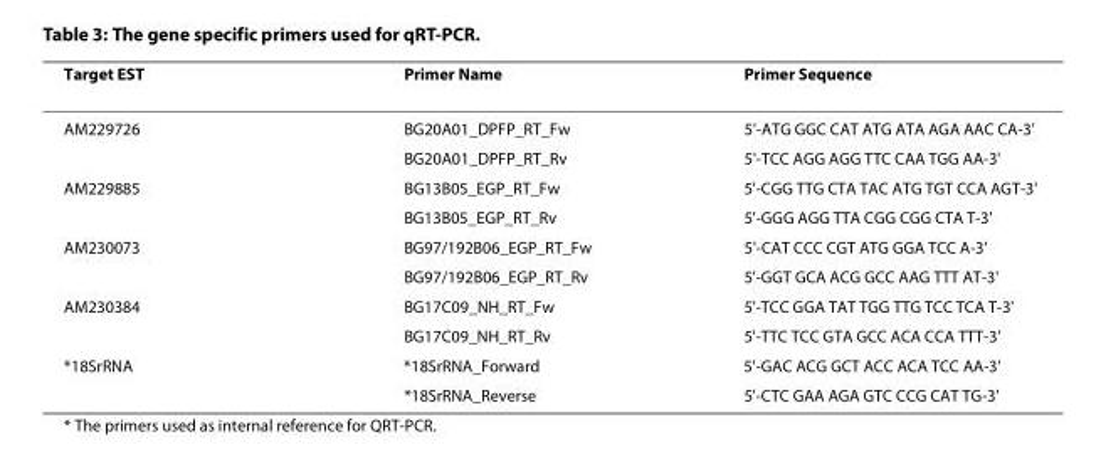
<table><thead><tr><td>Target EST</td><td>Primer Name</td><td>Primer Sequence</td></tr></thead><tbody><tr><td rowspan="2">AM229726</td><td>BG20A01_DPFP_RT_Fw</td><td>5&#x27;-ATG GGC CAT ATG ATA AGA AAC CA-3&#x27;</td></tr><tr><td>BG20A01_DPFP_RT_Rv</td><td>5&#x27;-TCC AGG AGG TTC CAA TGG AA-3&#x27;</td></tr><tr><td rowspan="2">AM229885</td><td>BG13B05_EGP_RT_Fw</td><td>5&#x27;-CGG TTG CTA TAC ATG TGT CCA AGT-3&#x27;</td></tr><tr><td>BG13B05_EGP_RT_Rv</td><td>5&#x27;-GGG AGG TTA CGG CGG CTA T-3&#x27;</td></tr><tr><td rowspan="2">AM230073</td><td>BG97/192B06_EGP_RT_Fw</td><td>5&#x27;-CAT CCC CGT ATG GGA TCC A-3&#x27;</td></tr><tr><td>BG97/192B06_EGP_RT_Rv</td><td>5&#x27;-GGT GCA ACG GCC AAG TTT AT-3&#x27;</td></tr><tr><td rowspan="2">AM230384</td><td>BG17C09_NH_RT_Fw</td><td>5&#x27;-TCC GGA TAT TGG TTG TCC TCA T-3&#x27;</td></tr><tr><td>BG17C09_NH_RT_Rv</td><td>5&#x27;-TTC TCC GTA GCC ACA CCA TTT-3&#x27;</td></tr><tr><td rowspan="2">*18SrRNA</td><td>*18SrRNA_Forward</td><td>5&#x27;-GAC ACG GCT ACC ACA TCC AA-3&#x27;</td></tr><tr><td>*18SrRNA_Reverse</td><td>5&#x27;-CTC GAA AGA GTC CCG CAT TG-3&#x27;</td></tr></tbody></table>